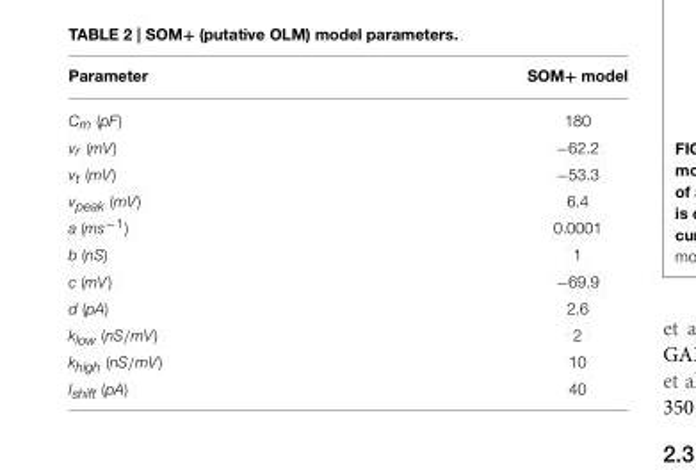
<table><thead><tr><td>Parameter</td><td>SOM+ model</td></tr></thead><tbody><tr><td>C<sub>m</sub> (pF)</td><td>180</td></tr><tr><td>v<sub>r</sub> (mV)</td><td>−62.2</td></tr><tr><td>v<sub>t</sub> (mV)</td><td>−53.3</td></tr><tr><td>v<sub>peak</sub> (mV)</td><td>6.4</td></tr><tr><td>a (ms<sup>−1</sup>)</td><td>0.0001</td></tr><tr><td>b (nS)</td><td>1</td></tr><tr><td>c (mV)</td><td>−69.9</td></tr><tr><td>d (pA)</td><td>2.6</td></tr><tr><td>klow (nS/mV)</td><td>2</td></tr><tr><td>khigh (nS/mV)</td><td>10</td></tr><tr><td>I<sub>shift</sub> (pA)</td><td>40</td></tr></tbody></table>